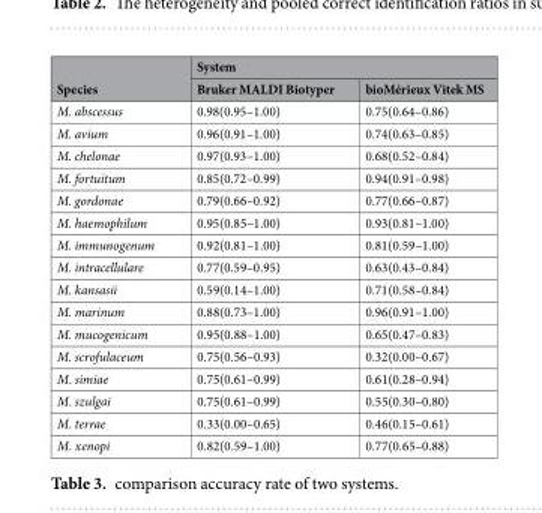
<table><thead><tr><td rowspan="2">Species</td><td colspan="2">System</td></tr><tr><td>Bruker MALDI Biotyper</td><td>bioMérieux Vitek MS</td></tr></thead><tbody><tr><td>M. abscessus</td><td>0.98(0.95–1.00)</td><td>0.75(0.64–0.86)</td></tr><tr><td>M. avium</td><td>0.96(0.91–1.00)</td><td>0.74(0.63–0.85)</td></tr><tr><td>M. chelonae</td><td>0.97(0.93–1.00)</td><td>0.68(0.52–0.84)</td></tr><tr><td>M. fortuitum</td><td>0.85(0.72–0.99)</td><td>0.94(0.91–0.98)</td></tr><tr><td>M. gordonae</td><td>0.79(0.66–0.92)</td><td>0.77(0.66–0.87)</td></tr><tr><td>M. haemophilum</td><td>0.95(0.85–1.00)</td><td>0.93(0.81–1.00)</td></tr><tr><td>M. immunogenum</td><td>0.92(0.81–1.00)</td><td>0.81(0.59–1.00)</td></tr><tr><td>M. intracellulare</td><td>0.77(0.59–0.95)</td><td>0.63(0.43–0.84)</td></tr><tr><td>M. kansasii</td><td>0.59(0.14–1.00)</td><td>0.71(0.58–0.84)</td></tr><tr><td>M. marinum</td><td>0.88(0.73–1.00)</td><td>0.96(0.91–1.00)</td></tr><tr><td>M. mucogenicum</td><td>0.95(0.88–1.00)</td><td>0.65(0.47–0.83)</td></tr><tr><td>M. scrofulaceum</td><td>0.75(0.56–0.93)</td><td>0.32(0.00–0.67)</td></tr><tr><td>M. simiae</td><td>0.75(0.61–0.99)</td><td>0.61(0.28–0.94)</td></tr><tr><td>M. szulgai</td><td>0.75(0.61–0.99)</td><td>0.55(0.30–0.80)</td></tr><tr><td>M. terrae</td><td>0.33(0.00–0.65)</td><td>0.46(0.15–0.61)</td></tr><tr><td>M. xenopi</td><td>0.82(0.59–1.00)</td><td>0.77(0.65–0.88)</td></tr></tbody></table>